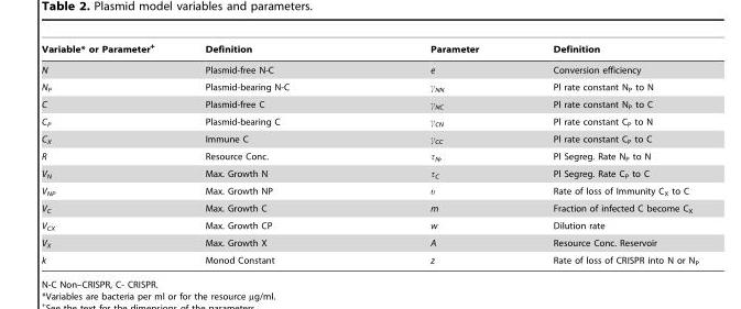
<table><thead><tr><td>Variable* or Parameter+</td><td>Definition</td><td>Parameter</td><td>Definition</td></tr></thead><tbody><tr><td>N</td><td>Plasmid-free N-C</td><td>e</td><td>Conversion efficiency</td></tr><tr><td>N<sub>P</sub></td><td>Plasmid-bearing N-C</td><td>γ<sub>NN</sub></td><td>Pl rate constant N<sub>P</sub> to N</td></tr><tr><td>C</td><td>Plasmid-free C</td><td>γ<sub>NC</sub></td><td>Pl rate constant N<sub>P</sub> to C</td></tr><tr><td>C<sub>P</sub></td><td>Plasmid-bearing C</td><td>γ<sub>CN</sub></td><td>Pl rate constant C<sub>P</sub> to N</td></tr><tr><td>C<sub>X</sub></td><td>Immune C</td><td>γ<sub>CC</sub></td><td>Pl rate constant C<sub>P</sub> to C</td></tr><tr><td>R</td><td>Resource Conc.</td><td>τ<sub>N</sub>,</td><td>Pl Segreg. Rate N<sub>P</sub> to N</td></tr><tr><td>V<sub>N</sub></td><td>Max. Growth N</td><td>τ<sub>C</sub></td><td>Pl Segreg. Rate C<sub>P</sub> to C</td></tr><tr><td>V<sub>NP</sub></td><td>Max. Growth NP</td><td>υ</td><td>Rate of loss of Immunity C<sub>X</sub> to C</td></tr><tr><td>V<sub>C</sub></td><td>Max. Growth C</td><td>m</td><td>Fraction of infected C become C<sub>X</sub></td></tr><tr><td>V<sub>CX</sub></td><td>Max. Growth CP</td><td>w</td><td>Dilution rate</td></tr><tr><td>V<sub>X</sub></td><td>Max. Growth X</td><td>A</td><td>Resource Conc. Reservoir</td></tr><tr><td>k</td><td>Monod Constant</td><td>z</td><td>Rate of loss of CRISPR into N or N<sub>P</sub></td></tr></tbody></table>